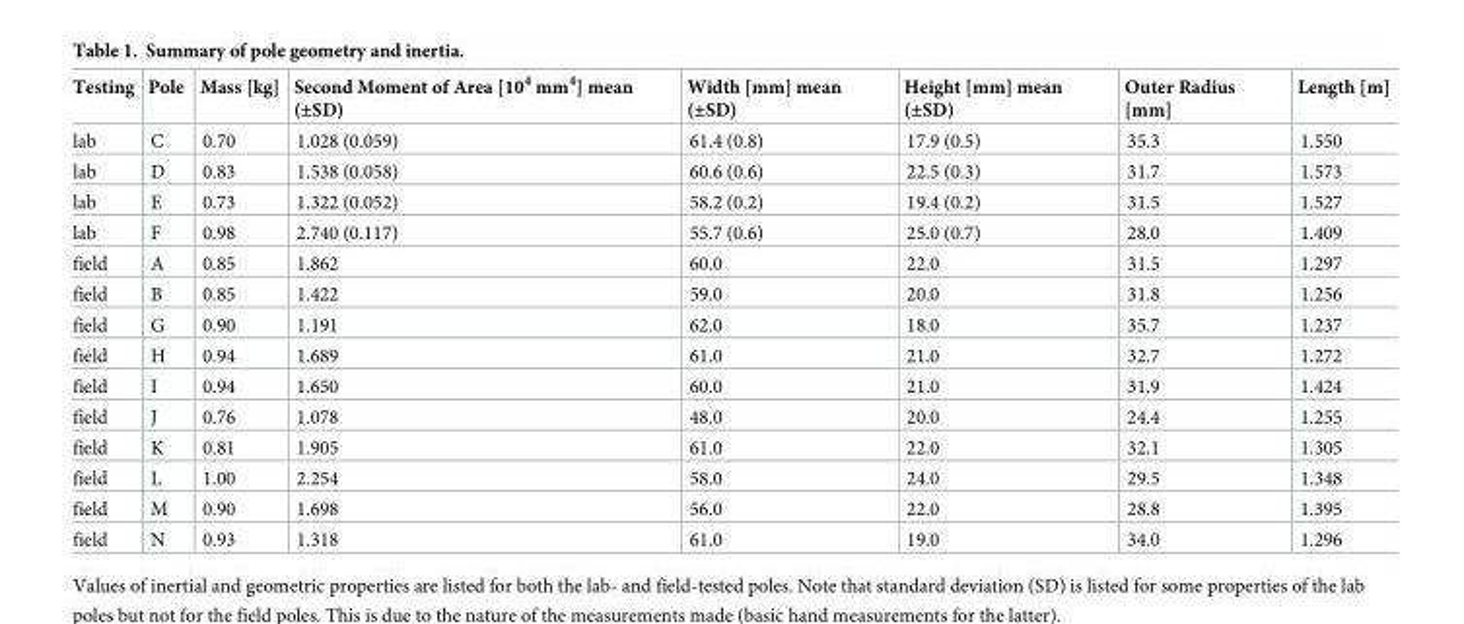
<table><thead><tr><td>Testing</td><td>Pole</td><td>Mass [kg]</td><td>Second Moment of Area [10<sup>4</sup> mm<sup>4</sup>] mean (±SD)</td><td>Width [mm] mean (±SD)</td><td>Height [mm] mean (±SD)</td><td>Outer Radius [mm]</td><td>Length [m]</td></tr></thead><tbody><tr><td>lab</td><td>C</td><td>0.70</td><td>1.028 (0.059)</td><td>61.4 (0.8)</td><td>17.9 (0.5)</td><td>35.3</td><td>1.550</td></tr><tr><td>lab</td><td>D</td><td>0.83</td><td>1.538 (0.058)</td><td>60.6 (0.6)</td><td>22.5 (0.3)</td><td>31.7</td><td>1.573</td></tr><tr><td>lab</td><td>E</td><td>0.73</td><td>1.322 (0.052)</td><td>58.2 (0.2)</td><td>19.4 (0.2)</td><td>31.5</td><td>1.527</td></tr><tr><td>lab</td><td>F</td><td>0.98</td><td>2.740 (0.117)</td><td>55.7 (0.6)</td><td>25.0 (0.7)</td><td>28.0</td><td>1.409</td></tr><tr><td>field</td><td>A</td><td>0.85</td><td>1.862</td><td>60.0</td><td>22.0</td><td>31.5</td><td>1.297</td></tr><tr><td>field</td><td>B</td><td>0.85</td><td>1.422</td><td>59.0</td><td>20.0</td><td>31.8</td><td>1.256</td></tr><tr><td>field</td><td>G</td><td>0.90</td><td>1.191</td><td>62.0</td><td>18.0</td><td>35.7</td><td>1.237</td></tr><tr><td>field</td><td>H</td><td>0.94</td><td>1.689</td><td>61.0</td><td>21.0</td><td>32.7</td><td>1.272</td></tr><tr><td>field</td><td>I</td><td>0.94</td><td>1.650</td><td>60.0</td><td>21.0</td><td>31.9</td><td>1.424</td></tr><tr><td>field</td><td>J</td><td>0.76</td><td>1.078</td><td>48.0</td><td>20.0</td><td>24.4</td><td>1.255</td></tr><tr><td>field</td><td>K</td><td>0.81</td><td>1.905</td><td>61.0</td><td>22.0</td><td>32.1</td><td>1.305</td></tr><tr><td>field</td><td>L</td><td>1.00</td><td>2.254</td><td>58.0</td><td>24.0</td><td>29.5</td><td>1.348</td></tr><tr><td>field</td><td>M</td><td>0.90</td><td>1.698</td><td>56.0</td><td>22.0</td><td>28.8</td><td>1.395</td></tr><tr><td>field</td><td>N</td><td>0.93</td><td>1.318</td><td>61.0</td><td>19.0</td><td>34.0</td><td>1.296</td></tr></tbody></table>